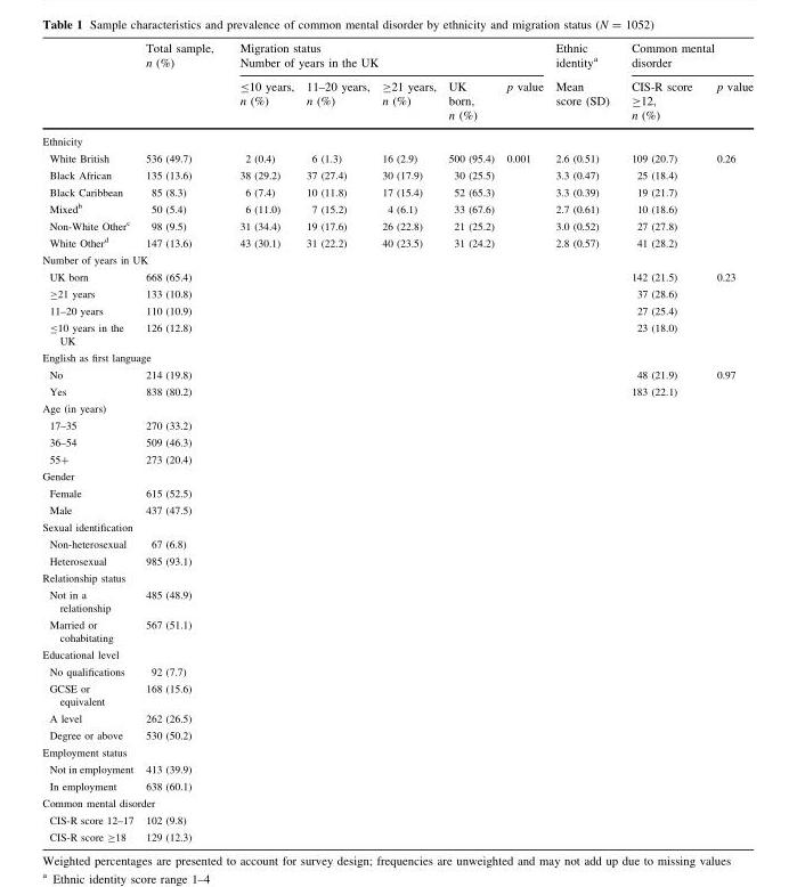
<table><thead><tr><td rowspan="2"></td><td rowspan="2">Total sample, n (%)</td><td colspan="5">Migration status Number of years in the UK</td><td rowspan="2">Ethnic identity<sup>a</sup> Mean score (SD)</td><td colspan="2">Common mental disorder</td></tr><tr><td>≤10 years, n (%)</td><td>11–20 years, n (%)</td><td>≥21 years, n (%)</td><td>UK born, n (%)</td><td>p value</td><td>CIS-R score ≥12, n (%)</td><td>p value</td></tr></thead><tbody><tr><td colspan="10">Ethnicity</td></tr><tr><td>White British</td><td>536 (49.7)</td><td>2 (0.4)</td><td>6 (1.3)</td><td>16 (2.9)</td><td>500 (95.4)</td><td>0.001</td><td>2.6 (0.51)</td><td>109 (20.7)</td><td>0.26</td></tr><tr><td>Black African</td><td>135 (13.6)</td><td>38 (29.2)</td><td>37 (27.4)</td><td>30 (17.9)</td><td>30 (25.5)</td><td></td><td>3.3 (0.47)</td><td>25 (18.4)</td><td></td></tr><tr><td>Black Caribbean</td><td>85 (8.3)</td><td>6 (7.4)</td><td>10 (11.8)</td><td>17 (15.4)</td><td>52 (65.3)</td><td></td><td>3.3 (0.39)</td><td>19 (21.7)</td><td></td></tr><tr><td>Mixed<sup>b</sup></td><td>50 (5.4)</td><td>6 (11.0)</td><td>7 (15.2)</td><td>4 (6.1)</td><td>33 (67.6)</td><td></td><td>2.7 (0.61)</td><td>10 (18.6)</td><td></td></tr><tr><td>Non-White Other<sup>c</sup></td><td>98 (9.5)</td><td>31 (34.4)</td><td>19 (17.6)</td><td>26 (22.8)</td><td>21 (25.2)</td><td></td><td>3.0 (0.52)</td><td>27 (27.8)</td><td></td></tr><tr><td>White Other<sup>d</sup></td><td>147 (13.6)</td><td>43 (30.1)</td><td>31 (22.2)</td><td>40 (23.5)</td><td>31 (24.2)</td><td></td><td>2.8 (0.57)</td><td>41 (28.2)</td><td></td></tr><tr><td colspan="10">Number of years in UK</td></tr><tr><td>UK born</td><td>668 (65.4)</td><td></td><td></td><td></td><td></td><td></td><td></td><td>142 (21.5)</td><td>0.23</td></tr><tr><td>≥21 years</td><td>133 (10.8)</td><td></td><td></td><td></td><td></td><td></td><td></td><td>37 (28.6)</td><td></td></tr><tr><td>11–20 years</td><td>110 (10.9)</td><td></td><td></td><td></td><td></td><td></td><td></td><td>27 (25.4)</td><td></td></tr><tr><td>≤10 years in the UK</td><td>126 (12.8)</td><td></td><td></td><td></td><td></td><td></td><td></td><td>23 (18.0)</td><td></td></tr><tr><td colspan="10">English as first language</td></tr><tr><td>No</td><td>214 (19.8)</td><td></td><td></td><td></td><td></td><td></td><td></td><td>48 (21.9)</td><td>0.97</td></tr><tr><td>Yes</td><td>838 (80.2)</td><td></td><td></td><td></td><td></td><td></td><td></td><td>183 (22.1)</td><td></td></tr><tr><td colspan="10">Age (in years)</td></tr><tr><td>17–35</td><td>270 (33.2)</td><td></td><td></td><td></td><td></td><td></td><td></td><td></td><td></td></tr><tr><td>36–54</td><td>509 (46.3)</td><td></td><td></td><td></td><td></td><td></td><td></td><td></td><td></td></tr><tr><td>55+</td><td>273 (20.4)</td><td></td><td></td><td></td><td></td><td></td><td></td><td></td><td></td></tr><tr><td colspan="10">Gender</td></tr><tr><td>Female</td><td>615 (52.5)</td><td></td><td></td><td></td><td></td><td></td><td></td><td></td><td></td></tr><tr><td>Male</td><td>437 (47.5)</td><td></td><td></td><td></td><td></td><td></td><td></td><td></td><td></td></tr><tr><td colspan="10">Sexual identification</td></tr><tr><td>Non-heterosexual</td><td>67 (6.8)</td><td></td><td></td><td></td><td></td><td></td><td></td><td></td><td></td></tr><tr><td>Heterosexual</td><td>985 (93.1)</td><td></td><td></td><td></td><td></td><td></td><td></td><td></td><td></td></tr><tr><td colspan="10">Relationship status</td></tr><tr><td>Not in a relationship</td><td>485 (48.9)</td><td></td><td></td><td></td><td></td><td></td><td></td><td></td><td></td></tr><tr><td>Married or cohabitating</td><td>567 (51.1)</td><td></td><td></td><td></td><td></td><td></td><td></td><td></td><td></td></tr><tr><td colspan="10">Educational level</td></tr><tr><td>No qualifications</td><td>92 (7.7)</td><td></td><td></td><td></td><td></td><td></td><td></td><td></td><td></td></tr><tr><td>GCSE or equivalent</td><td>168 (15.6)</td><td></td><td></td><td></td><td></td><td></td><td></td><td></td><td></td></tr><tr><td>A level</td><td>262 (26.5)</td><td></td><td></td><td></td><td></td><td></td><td></td><td></td><td></td></tr><tr><td>Degree or above</td><td>530 (50.2)</td><td></td><td></td><td></td><td></td><td></td><td></td><td></td><td></td></tr><tr><td colspan="10">Employment status</td></tr><tr><td>Not in employment</td><td>413 (39.9)</td><td></td><td></td><td></td><td></td><td></td><td></td><td></td><td></td></tr><tr><td>In employment</td><td>638 (60.1)</td><td></td><td></td><td></td><td></td><td></td><td></td><td></td><td></td></tr><tr><td colspan="10">Common mental disorder</td></tr><tr><td>CIS-R score 12–17</td><td>102 (9.8)</td><td></td><td></td><td></td><td></td><td></td><td></td><td></td><td></td></tr><tr><td>CIS-R score ≥18</td><td>129 (12.3)</td><td></td><td></td><td></td><td></td><td></td><td></td><td></td><td></td></tr></tbody></table>